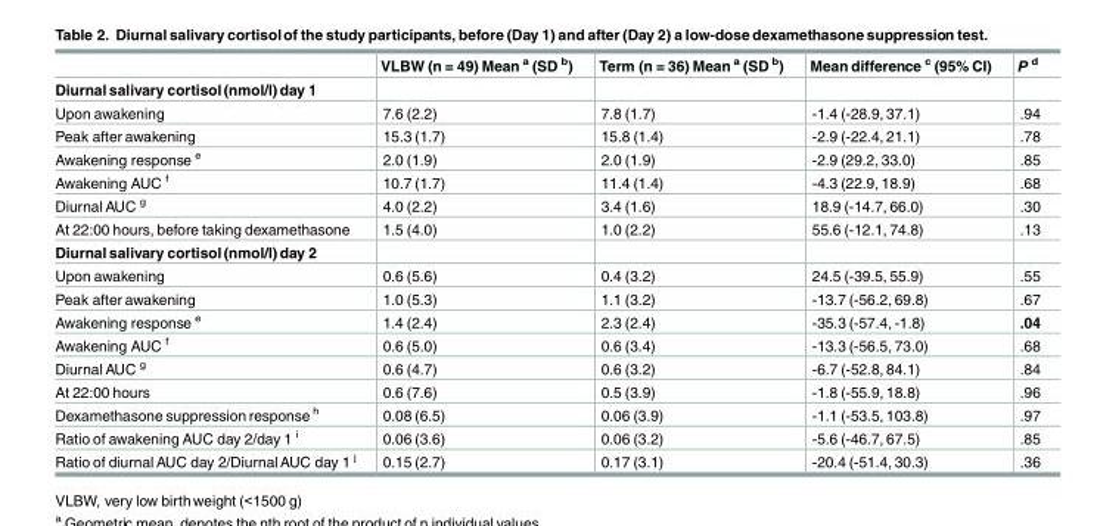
<table><thead><tr><td></td><td>VLBW (n = 49) Mean <sup>a</sup> (SD <sup>b</sup>)</td><td>Term (n = 36) Mean <sup>a</sup> (SD <sup>b</sup>)</td><td>Mean difference <sup>c</sup> (95% CI)</td><td>P <sup>d</sup></td></tr></thead><tbody><tr><td colspan="5">Diurnal salivary cortisol(nmol/l) day 1</td></tr><tr><td>Upon awakening</td><td>7.6 (2.2)</td><td>7.8 (1.7)</td><td>-1.4 (-28.9, 37.1)</td><td>.94</td></tr><tr><td>Peak after awakening</td><td>15.3 (1.7)</td><td>15.8 (1.4)</td><td>-2.9 (-22.4, 21.1)</td><td>.78</td></tr><tr><td>Awakening response <sup>e</sup></td><td>2.0 (1.9)</td><td>2.0 (1.9)</td><td>-2.9 (29.2, 33.0)</td><td>.85</td></tr><tr><td>Awakening AUC <sup>f</sup></td><td>10.7 (1.7)</td><td>11.4 (1.4)</td><td>-4.3 (22.9, 18.9)</td><td>.68</td></tr><tr><td>Diurnal AUC <sup>g</sup></td><td>4.0 (2.2)</td><td>3.4 (1.6)</td><td>18.9 (-14.7, 66.0)</td><td>.30</td></tr><tr><td>At 22:00 hours, before taking dexamethasone</td><td>1.5 (4.0)</td><td>1.0 (2.2)</td><td>55.6 (-12.1, 74.8)</td><td>.13</td></tr><tr><td colspan="5">Diurnal salivary cortisol(nmol/l) day 2</td></tr><tr><td>Upon awakening</td><td>0.6 (5.6)</td><td>0.4 (3.2)</td><td>24.5 (-39.5, 55.9)</td><td>.55</td></tr><tr><td>Peak after awakening</td><td>1.0 (5.3)</td><td>1.1 (3.2)</td><td>-13.7 (-56.2, 69.8)</td><td>.67</td></tr><tr><td>Awakening response <sup>e</sup></td><td>1.4 (2.4)</td><td>2.3 (2.4)</td><td>-35.3 (-57.4, -1.8)</td><td>.04</td></tr><tr><td>Awakening AUC <sup>f</sup></td><td>0.6 (5.0)</td><td>0.6 (3.4)</td><td>-13.3 (-56.5, 73.0)</td><td>.68</td></tr><tr><td>Diurnal AUC <sup>g</sup></td><td>0.6 (4.7)</td><td>0.6 (3.2)</td><td>-6.7 (-52.8, 84.1)</td><td>.84</td></tr><tr><td>At 22:00 hours</td><td>0.6 (7.6)</td><td>0.5 (3.9)</td><td>-1.8 (-55.9, 18.8)</td><td>.96</td></tr><tr><td>Dexamethasone suppression response <sup>h</sup></td><td>0.08 (6.5)</td><td>0.06 (3.9)</td><td>-1.1 (-53.5, 103.8)</td><td>.97</td></tr><tr><td>Ratio of awakening AUC day 2/day 1 <sup>i</sup></td><td>0.06 (3.6)</td><td>0.06 (3.2)</td><td>-5.6 (-46.7, 67.5)</td><td>.85</td></tr><tr><td>Ratio of diurnal AUC day 2/DiurnalAUC day 1 <sup>j</sup></td><td>0.15 (2.7)</td><td>0.17 (3.1)</td><td>-20.4 (-51.4, 30.3)</td><td>.36</td></tr></tbody></table>